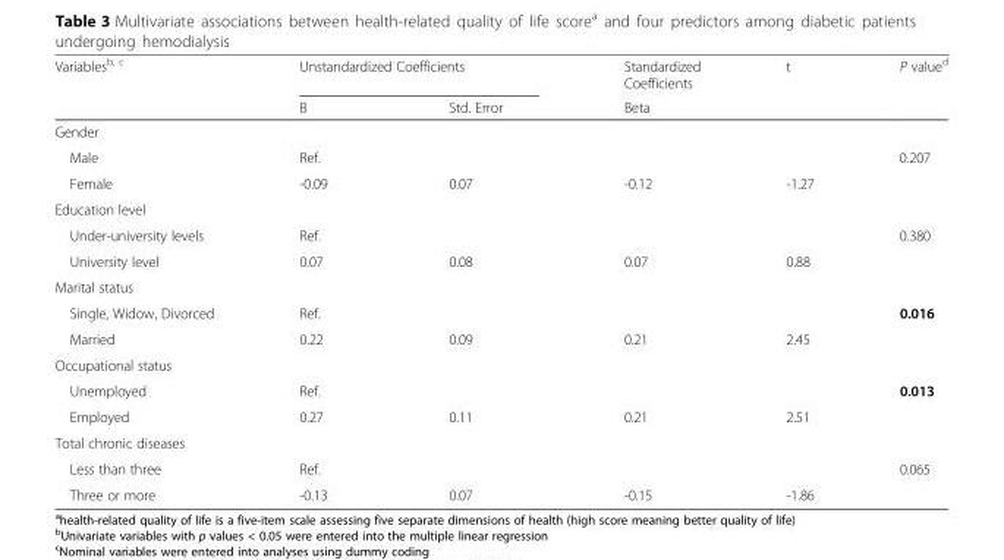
<table><thead><tr><td rowspan="2">Variables<sup>b, c</sup></td><td colspan="2">Unstandardized Coefficients</td><td rowspan="2">Standardized Coefficients Beta</td><td rowspan="2">t</td><td rowspan="2">P value<sup>d</sup></td></tr><tr><td>B</td><td>Std. Error</td></tr></thead><tbody><tr><td colspan="6">Gender</td></tr><tr><td>Male</td><td>Ref.</td><td></td><td></td><td></td><td>0.207</td></tr><tr><td>Female</td><td>-0.09</td><td>0.07</td><td>-0.12</td><td>-1.27</td><td></td></tr><tr><td colspan="6">Education level</td></tr><tr><td>Under-university levels</td><td>Ref.</td><td></td><td></td><td></td><td>0.380</td></tr><tr><td>University level</td><td>0.07</td><td>0.08</td><td>0.07</td><td>0.88</td><td></td></tr><tr><td colspan="6">Marital status</td></tr><tr><td>Single, Widow, Divorced</td><td>Ref.</td><td></td><td></td><td></td><td>0.016</td></tr><tr><td>Married</td><td>0.22</td><td>0.09</td><td>0.21</td><td>2.45</td><td></td></tr><tr><td colspan="6">Occupational status</td></tr><tr><td>Unemployed</td><td>Ref.</td><td></td><td></td><td></td><td>0.013</td></tr><tr><td>Employed</td><td>0.27</td><td>0.11</td><td>0.21</td><td>2.51</td><td></td></tr><tr><td colspan="6">Total chronic diseases</td></tr><tr><td>Less than three</td><td>Ref.</td><td></td><td></td><td></td><td>0.065</td></tr><tr><td>Three or more</td><td>-0.13</td><td>0.07</td><td>-0.15</td><td>-1.86</td><td></td></tr></tbody></table>